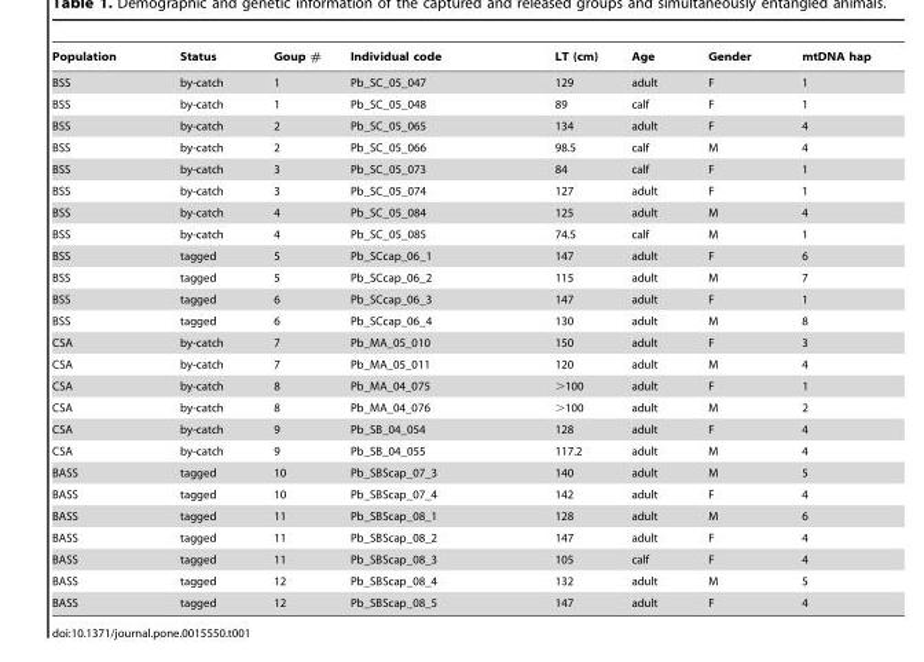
<table><thead><tr><td>Population</td><td>Status</td><td>Goup #</td><td>Individual code</td><td>LT (cm)</td><td>Age</td><td>Gender</td><td>mtDNA hap</td></tr></thead><tbody><tr><td>BSS</td><td>by-catch</td><td>1</td><td>Pb_SC_05_047</td><td>129</td><td>adult</td><td>F</td><td>1</td></tr><tr><td>BSS</td><td>by-catch</td><td>1</td><td>Pb_SC_05_048</td><td>89</td><td>calf</td><td>F</td><td>1</td></tr><tr><td>BSS</td><td>by-catch</td><td>2</td><td>Pb_SC_05_065</td><td>134</td><td>adult</td><td>F</td><td>4</td></tr><tr><td>BSS</td><td>by-catch</td><td>2</td><td>Pb_SC_05_066</td><td>98.5</td><td>calf</td><td>M</td><td>4</td></tr><tr><td>BSS</td><td>by-catch</td><td>3</td><td>Pb_SC_05_073</td><td>84</td><td>calf</td><td>F</td><td>1</td></tr><tr><td>BSS</td><td>by-catch</td><td>3</td><td>Pb_SC_05_074</td><td>127</td><td>adult</td><td>F</td><td>1</td></tr><tr><td>BSS</td><td>by-catch</td><td>4</td><td>Pb_SC_05_084</td><td>125</td><td>adult</td><td>M</td><td>4</td></tr><tr><td>BSS</td><td>by-catch</td><td>4</td><td>Pb_SC_05_085</td><td>74.5</td><td>calf</td><td>M</td><td>1</td></tr><tr><td>BSS</td><td>tagged</td><td>5</td><td>Pb_SCcap_06_1</td><td>147</td><td>adult</td><td>F</td><td>6</td></tr><tr><td>BSS</td><td>tagged</td><td>5</td><td>Pb_SCcap_06_2</td><td>115</td><td>adult</td><td>M</td><td>7</td></tr><tr><td>BSS</td><td>tagged</td><td>6</td><td>Pb_SCcap_06_3</td><td>147</td><td>adult</td><td>F</td><td>1</td></tr><tr><td>BSS</td><td>tagged</td><td>6</td><td>Pb_SCcap_06_4</td><td>130</td><td>adult</td><td>M</td><td>8</td></tr><tr><td>CSA</td><td>by-catch</td><td>7</td><td>Pb_MA_05_010</td><td>150</td><td>adult</td><td>F</td><td>3</td></tr><tr><td>CSA</td><td>by-catch</td><td>7</td><td>Pb_MA_05_011</td><td>120</td><td>adult</td><td>M</td><td>4</td></tr><tr><td>CSA</td><td>by-catch</td><td>8</td><td>Pb_MA_04_075</td><td>&gt;100</td><td>adult</td><td>F</td><td>1</td></tr><tr><td>CSA</td><td>by-catch</td><td>8</td><td>Pb_MA_04_076</td><td>&gt;100</td><td>adult</td><td>M</td><td>2</td></tr><tr><td>CSA</td><td>by-catch</td><td>9</td><td>Pb_SB_04_054</td><td>128</td><td>adult</td><td>F</td><td>4</td></tr><tr><td>CSA</td><td>by-catch</td><td>9</td><td>Pb_SB_04_055</td><td>117.2</td><td>adult</td><td>M</td><td>4</td></tr><tr><td>BASS</td><td>tagged</td><td>10</td><td>Pb_SBScap_07_3</td><td>140</td><td>adult</td><td>M</td><td>5</td></tr><tr><td>BASS</td><td>tagged</td><td>10</td><td>Pb_SBScap_07_4</td><td>142</td><td>adult</td><td>F</td><td>4</td></tr><tr><td>BASS</td><td>tagged</td><td>11</td><td>Pb_SBScap_08_1</td><td>128</td><td>adult</td><td>M</td><td>6</td></tr><tr><td>BASS</td><td>tagged</td><td>11</td><td>Pb_SBScap_08_2</td><td>147</td><td>adult</td><td>F</td><td>4</td></tr><tr><td>BASS</td><td>tagged</td><td>11</td><td>Pb_SBScap_08_3</td><td>105</td><td>calf</td><td>F</td><td>4</td></tr><tr><td>BASS</td><td>tagged</td><td>12</td><td>Pb_SBScap_08_4</td><td>132</td><td>adult</td><td>M</td><td>5</td></tr><tr><td>BASS</td><td>tagged</td><td>12</td><td>Pb_SBScap_08_5</td><td>147</td><td>adult</td><td>F</td><td>4</td></tr></tbody></table>